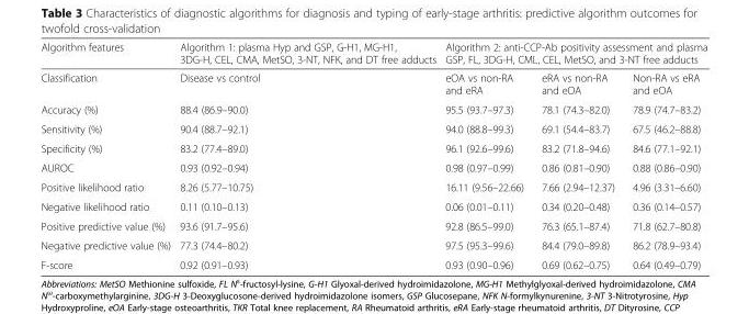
<table><thead><tr><td rowspan="2">Algorithm features Classification</td><td rowspan="2">Algorithm 1: plasma Hyp and GSP, G-H1, MG-H1, 3DG-H, CEL, CMA, MetSO, 3-NT, NFK, and DT free adducts Disease vs control</td><td colspan="3">Algorithm 2: anti-CCP-Ab positivity assessment and plasma GSP, FL, 3DG-H, CML, CEL, MetSO, and 3-NT free adducts</td></tr><tr><td>eOA vs non-RA and eRA</td><td>eRA vs non-RA and eOA</td><td>Non-RA vs eRA and eOA</td></tr></thead><tbody><tr><td>Accuracy (%)</td><td>88.4 (86.9–90.0)</td><td>95.5 (93.7–97.3)</td><td>78.1 (74.3–82.0)</td><td>78.9 (74.7–83.2)</td></tr><tr><td>Sensitivity (%)</td><td>90.4 (88.7–92.1)</td><td>94.0 (88.8–99.3)</td><td>69.1 (54.4–83.7)</td><td>67.5 (46.2–88.8)</td></tr><tr><td>Specificity (%)</td><td>83.2 (77.4–89.0)</td><td>96.1 (92.6–99.6)</td><td>83.2 (71.8–94.6)</td><td>84.6 (77.1–92.1)</td></tr><tr><td>AUROC</td><td>0.93 (0.92–0.94)</td><td>0.98 (0.97–0.99)</td><td>0.86 (0.81–0.90)</td><td>0.88 (0.86–0.90)</td></tr><tr><td>Positive likelihood ratio</td><td>8.26 (5.77–10.75)</td><td>16.11 (9.56–22.66)</td><td>7.66 (2.94–12.37)</td><td>4.96 (3.31–6.60)</td></tr><tr><td>Negative likelihood ratio</td><td>0.11 (0.10–0.13)</td><td>0.06 (0.01–0.11)</td><td>0.34 (0.20–0.48)</td><td>0.36 (0.14–0.57)</td></tr><tr><td>Positive predictive value (%)</td><td>93.6 (91.7–95.6)</td><td>92.8 (86.5–99.0)</td><td>76.3 (65.1–87.4)</td><td>71.8 (62.7–80.8)</td></tr><tr><td>Negative predictive value (%)</td><td>77.3 (74.4–80.2)</td><td>97.5 (95.3–99.6)</td><td>84.4 (79.0–89.8)</td><td>86.2 (78.9–93.4)</td></tr><tr><td>F-score</td><td>0.92 (0.91–0.93)</td><td>0.93 (0.90–0.96)</td><td>0.69 (0.62–0.75)</td><td>0.64 (0.49–0.79)</td></tr></tbody></table>